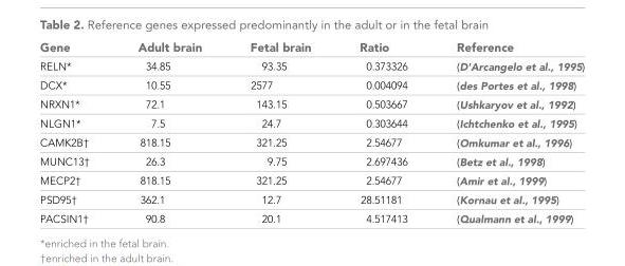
<table><thead><tr><td>Gene</td><td>Adult brain</td><td>Fetal brain</td><td>Ratio</td><td>Reference</td></tr></thead><tbody><tr><td>RELN*</td><td>34.85</td><td>93.35</td><td>0.373326</td><td>(D&#x27;Arcangelo et al., 1995)</td></tr><tr><td>DCX*</td><td>10.55</td><td>2577</td><td>0.004094</td><td>(des Portes et al., 1998)</td></tr><tr><td>NRXN1*</td><td>72.1</td><td>143.15</td><td>0.503667</td><td>(Ushkaryov et al., 1992)</td></tr><tr><td>NLGN1*</td><td>7.5</td><td>24.7</td><td>0.303644</td><td>(Ichtchenko et al., 1995)</td></tr><tr><td>CAMK2B†</td><td>818.15</td><td>321.25</td><td>2.54677</td><td>(Omkumar et al., 1996)</td></tr><tr><td>MUNC13†</td><td>26.3</td><td>9.75</td><td>2.697436</td><td>(Betz et al., 1998)</td></tr><tr><td>MECP2†</td><td>818.15</td><td>321.25</td><td>2.54677</td><td>(Amir et al., 1999)</td></tr><tr><td>PSD95†</td><td>362.1</td><td>12.7</td><td>28.51181</td><td>(Kornau et al., 1995)</td></tr><tr><td>PACSIN1†</td><td>90.8</td><td>20.1</td><td>4.517413</td><td>(Qualmann et al., 1999)</td></tr></tbody></table>